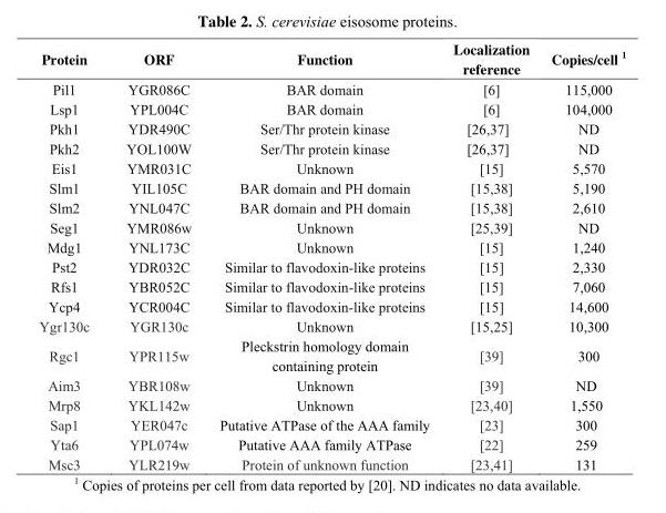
<table><thead><tr><td>Protein</td><td>ORF</td><td>Function</td><td>Localization reference</td><td>Copies/cell 1</td></tr></thead><tbody><tr><td>Pil1</td><td>YGR086C</td><td>BAR domain</td><td>[6]</td><td>115,000</td></tr><tr><td>Lsp1</td><td>YPL004C</td><td>BAR domain</td><td>[6]</td><td>104,000</td></tr><tr><td>Pkh1</td><td>YDR490C</td><td>Ser/Thr protein kinase</td><td>[26,37]</td><td>ND</td></tr><tr><td>Pkh2</td><td>YOL100W</td><td>Ser/Thr protein kinase</td><td>[26,37]</td><td>ND</td></tr><tr><td>Eis1</td><td>YMR031C</td><td>Unknown</td><td>[15]</td><td>5,570</td></tr><tr><td>Slm1</td><td>YIL105C</td><td>BAR domain and PH domain</td><td>[15,38]</td><td>5,190</td></tr><tr><td>Slm2</td><td>YNL047C</td><td>BAR domain and PH domain</td><td>[15,38]</td><td>2,610</td></tr><tr><td>Seg1</td><td>YMR086w</td><td>Unknown</td><td>[25,39]</td><td>ND</td></tr><tr><td>Mdg1</td><td>YNL173C</td><td>Unknown</td><td>[15]</td><td>1,240</td></tr><tr><td>Pst2</td><td>YDR032C</td><td>Similar to flavodoxin-like proteins</td><td>[15]</td><td>2,330</td></tr><tr><td>Rfs1</td><td>YBR052C</td><td>Similar to flavodoxin-like proteins</td><td>[15]</td><td>7,060</td></tr><tr><td>Ycp4</td><td>YCR004C</td><td>Similar to flavodoxin-like proteins</td><td>[15]</td><td>14,600</td></tr><tr><td>Ygr130c</td><td>YGR130c</td><td>Unknown</td><td>[15,25]</td><td>10,300</td></tr><tr><td>Rgc1</td><td>YPR115w</td><td>Pleckstrin homology domain containing protein</td><td>[39]</td><td>300</td></tr><tr><td>Aim3</td><td>YBR108w</td><td>Unknown</td><td>[39]</td><td>ND</td></tr><tr><td>Mrp8</td><td>YKL142w</td><td>Unknown</td><td>[23,40]</td><td>1,550</td></tr><tr><td>Sap1</td><td>YER047c</td><td>Putative ATPase of the AAA family</td><td>[23]</td><td>300</td></tr><tr><td>Yta6</td><td>YPL074w</td><td>Putative AAA family ATPase</td><td>[22]</td><td>259</td></tr><tr><td>Msc3</td><td>YLR219w</td><td>Protein of unknown function</td><td>[23,41]</td><td>131</td></tr></tbody></table>